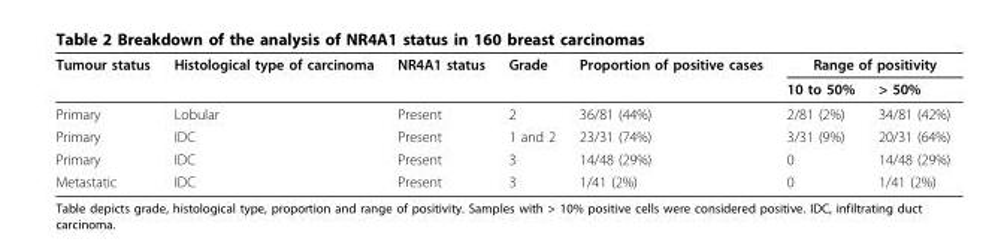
<table><thead><tr><td rowspan="2">Tumour status</td><td rowspan="2">Histological type of carcinoma</td><td rowspan="2">NR4A1 status</td><td rowspan="2">Grade</td><td rowspan="2">Proportion of positive cases</td><td colspan="2">Range of positivity</td></tr><tr><td>10 to 50%</td><td>&gt; 50%</td></tr></thead><tbody><tr><td>Primary</td><td>Lobular</td><td>Present</td><td>2</td><td>36/81 (44%)</td><td>2/81 (2%)</td><td>34/81 (42%)</td></tr><tr><td>Primary</td><td>IDC</td><td>Present</td><td>1 and 2</td><td>23/31 (74%)</td><td>3/31 (9%)</td><td>20/31 (64%)</td></tr><tr><td>Primary</td><td>IDC</td><td>Present</td><td>3</td><td>14/48 (29%)</td><td>0</td><td>14/48 (29%)</td></tr><tr><td>Metastatic</td><td>IDC</td><td>Present</td><td>3</td><td>1/41 (2%)</td><td>0</td><td>1/41 (2%)</td></tr></tbody></table>